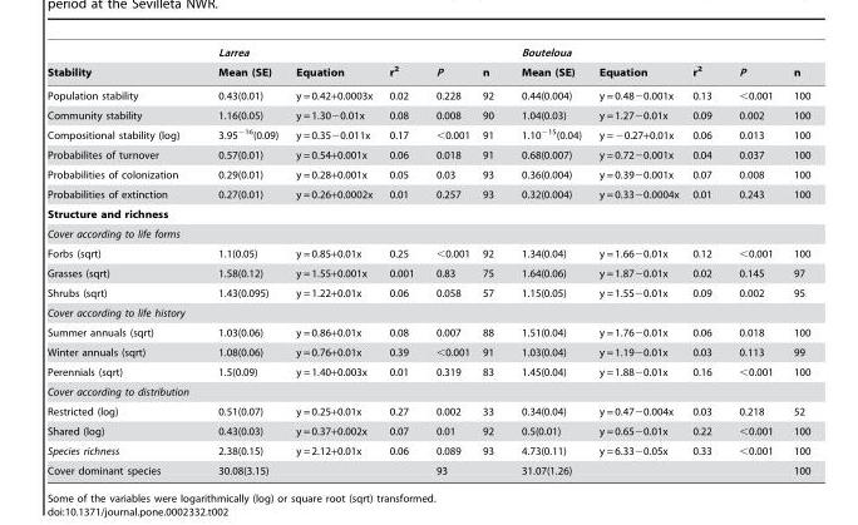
<table><thead><tr><td rowspan="2">Stability</td><td rowspan="2">Larrea Mean (SE)</td><td rowspan="2">Equation</td><td rowspan="2">r<sup>2</sup></td><td rowspan="2">P</td><td rowspan="2">n</td><td rowspan="2">Bouteloua Mean (SE)</td><td rowspan="2">Equation</td><td rowspan="2">r<sup>2</sup></td><td rowspan="2">P</td><td rowspan="2">n</td></tr><tr></tr></thead><tbody><tr><td>Population stability</td><td>0.43(0.01)</td><td>y = 0.42+0.0003x</td><td>0.02</td><td>0.228</td><td>92</td><td>0.44(0.004)</td><td>y = 0.48−0.001x</td><td>0.13</td><td>&lt;0.001</td><td>100</td></tr><tr><td>Community stability</td><td>1.16(0.05)</td><td>y = 1.30−0.01x</td><td>0.08</td><td>0.008</td><td>90</td><td>1.04(0.03)</td><td>y = 1.27−0.01x</td><td>0.09</td><td>0.002</td><td>100</td></tr><tr><td>Compositional stability (log)</td><td>3.95<sup>−16</sup>(0.09)</td><td>y = 0.35−0.011x</td><td>0.17</td><td>&lt;0.001</td><td>91</td><td>1.10<sup>−15</sup>(0.04)</td><td>y = −0.27+0.01x</td><td>0.06</td><td>0.013</td><td>100</td></tr><tr><td>Probabilites of turnover</td><td>0.57(0.01)</td><td>y = 0.54+0.001x</td><td>0.06</td><td>0.018</td><td>91</td><td>0.68(0.007)</td><td>y = 0.72−0.001x</td><td>0.04</td><td>0.037</td><td>100</td></tr><tr><td>Probabilities of colonization</td><td>0.29(0.01)</td><td>y = 0.28+0.001x</td><td>0.05</td><td>0.03</td><td>93</td><td>0.36(0.004)</td><td>y = 0.39−0.001x</td><td>0.07</td><td>0.008</td><td>100</td></tr><tr><td>Probabilities of extinction</td><td>0.27(0.01)</td><td>y = 0.26+0.0002x</td><td>0.01</td><td>0.257</td><td>93</td><td>0.32(0.004)</td><td>y = 0.33−0.0004x</td><td>0.01</td><td>0.243</td><td>100</td></tr><tr><td colspan="11">Structure and richness</td></tr><tr><td colspan="11">Cover according to life forms</td></tr><tr><td>Forbs (sqrt)</td><td>1.1(0.05)</td><td>y = 0.85+0.01x</td><td>0.25</td><td>&lt;0.001</td><td>92</td><td>1.34(0.04)</td><td>y = 1.66−0.01x</td><td>0.12</td><td>&lt;0.001</td><td>100</td></tr><tr><td>Grasses (sqrt)</td><td>1.58(0.12)</td><td>y = 1.55+0.001x</td><td>0.001</td><td>0.83</td><td>75</td><td>1.64(0.06)</td><td>y = 1.87−0.01x</td><td>0.02</td><td>0.145</td><td>97</td></tr><tr><td>Shrubs (sqrt)</td><td>1.43(0.095)</td><td>y = 1.22+0.01x</td><td>0.06</td><td>0.058</td><td>57</td><td>1.15(0.05)</td><td>y = 1.55−0.01x</td><td>0.09</td><td>0.002</td><td>95</td></tr><tr><td colspan="11">Cover according to life history</td></tr><tr><td>Summer annuals (sqrt)</td><td>1.03(0.06)</td><td>y = 0.86+0.01x</td><td>0.08</td><td>0.007</td><td>88</td><td>1.51(0.04)</td><td>y = 1.76−0.01x</td><td>0.06</td><td>0.018</td><td>100</td></tr><tr><td>Winter annuals (sqrt)</td><td>1.08(0.06)</td><td>y = 0.76+0.01x</td><td>0.39</td><td>&lt;0.001</td><td>91</td><td>1.03(0.04)</td><td>y = 1.19−0.01x</td><td>0.03</td><td>0.113</td><td>99</td></tr><tr><td>Perennials (sqrt)</td><td>1.5(0.09)</td><td>y = 1.40+0.003x</td><td>0.01</td><td>0.319</td><td>83</td><td>1.45(0.04)</td><td>y = 1.88−0.01x</td><td>0.16</td><td>&lt;0.001</td><td>100</td></tr><tr><td colspan="11">Cover according to distribution</td></tr><tr><td>Restricted (log)</td><td>0.51(0.07)</td><td>y = 0.25+0.01x</td><td>0.27</td><td>0.002</td><td>33</td><td>0.34(0.04)</td><td>y = 0.47−0.004x</td><td>0.03</td><td>0.218</td><td>52</td></tr><tr><td>Shared (log)</td><td>0.43(0.03)</td><td>y = 0.37+0.002x</td><td>0.07</td><td>0.01</td><td>92</td><td>0.5(0.01)</td><td>y = 0.65−0.01x</td><td>0.22</td><td>&lt;0.001</td><td>100</td></tr><tr><td>Species richness</td><td>2.38(0.15)</td><td>y = 2.12+0.01x</td><td>0.06</td><td>0.089</td><td>93</td><td>4.73(0.11)</td><td>y = 6.33−0.05x</td><td>0.33</td><td>&lt;0.001</td><td>100</td></tr><tr><td>Cover dominant species</td><td>30.08(3.15)</td><td></td><td></td><td>93</td><td></td><td>31.07(1.26)</td><td></td><td></td><td></td><td>100</td></tr></tbody></table>